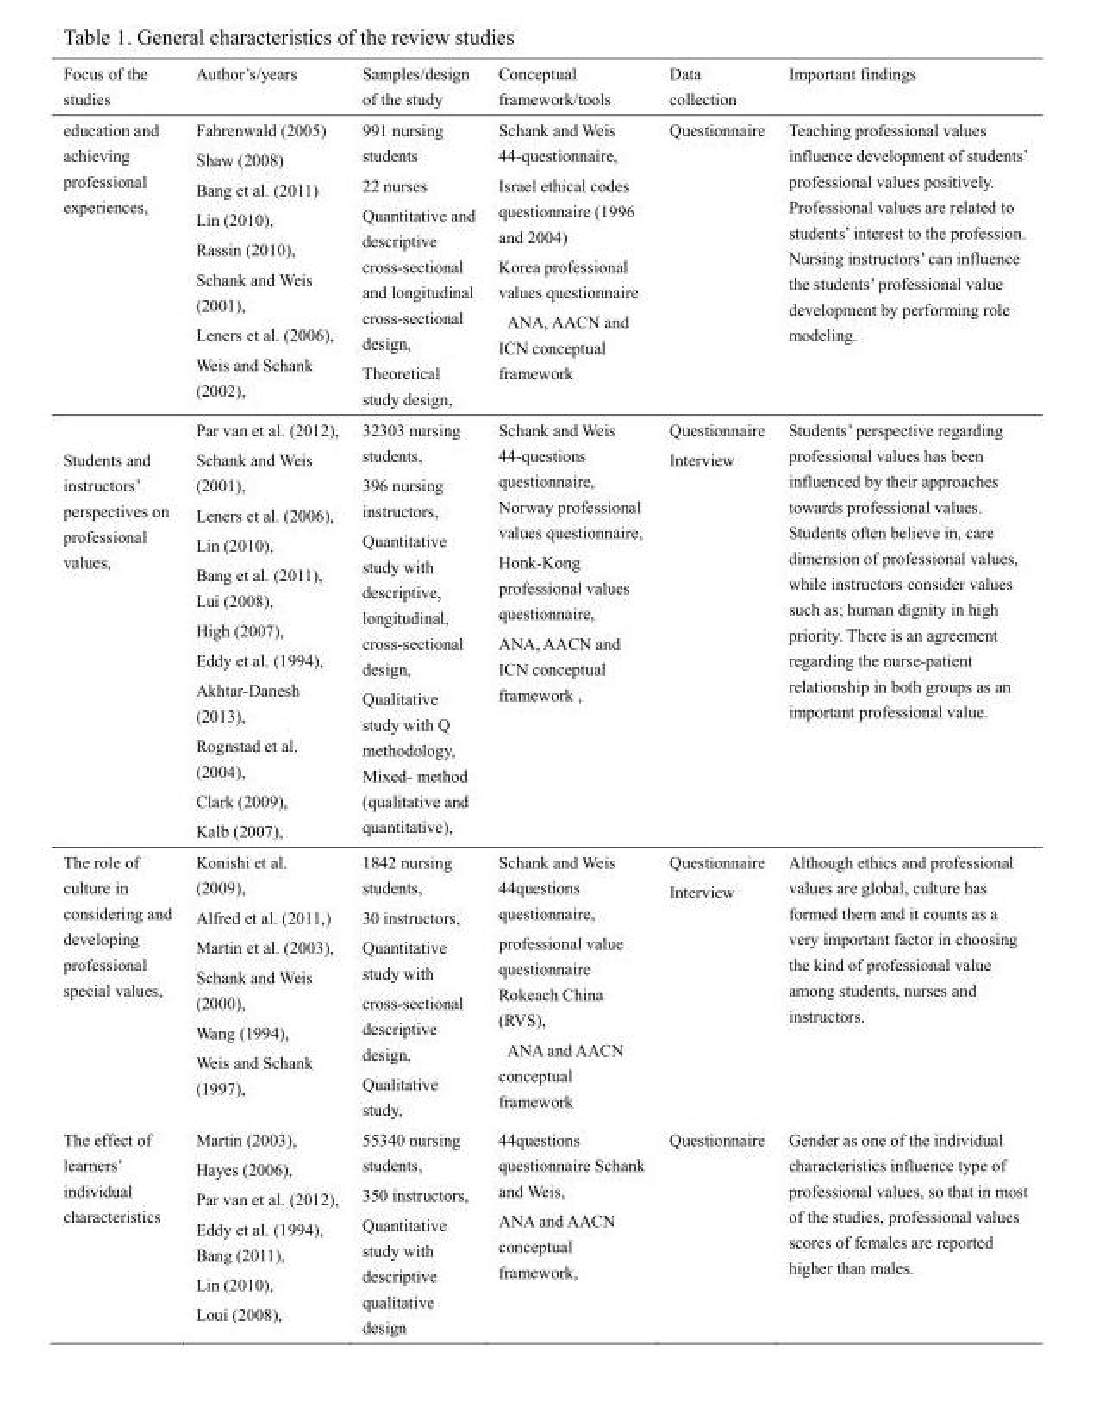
<table><thead><tr><td>Focus of the studies</td><td>Author’s/years</td><td>Samples/design of the study</td><td>Conceptual framework/tools</td><td>Data collection</td><td>Important findings</td></tr></thead><tbody><tr><td>education and achieving professional experiences,</td><td>Fahrenwald (2005) Shaw (2008) Bang et al. (2011) Lin (2010), Rassin (2010), Schank and Weis (2001), Leners et al. (2006), Weis and Schank (2002),</td><td>991 nursing students 22 nurses Quantitative and descriptive cross-sectional and longitudinal cross-sectional design, Theoretical study design,</td><td>Schank and Weis 44-questionnaire, Israel ethical codes questionnaire (1996 and 2004) Korea professional values questionnaire ANA, AACN and ICN conceptual framework</td><td>Questionnaire</td><td>Teaching professional values influence development of students’ professional values positively. Professional values are related to students’ interest to the profession. Nursing instructors’ can influence the students’ professional value development by performing role modeling.</td></tr><tr><td>Students and instructors’ perspectives on professional values,</td><td>Par van et al. (2012), Schank and Weis (2001), Leners et al. (2006), Lin (2010), Bang et al. (2011), Lui (2008), High (2007), Eddy et al. (1994), Akhtar-Danesh (2013), Rognstad et al. (2004), Clark (2009), Kalb (2007),</td><td>32303 nursing students, 396 nursing instructors, Quantitative study with descriptive, longitudinal, cross-sectional design, Qualitative study with Q methodology, Mixed- method (qualitative and quantitative),</td><td>Schank and Weis 44-questions questionnaire, Norway professional values questionnaire, Honk-Kong professional values questionnaire, ANA, AACN and ICN conceptual framework ,</td><td>Questionnaire Interview</td><td>Students’ perspective regarding professional values has been influenced by their approaches towards professional values. Students often believe in, care dimension of professional values, while instructors consider values such as; human dignity in high priority. There is an agreement regarding the nurse-patient relationship in both groups as an important professional value.</td></tr><tr><td>The role of culture in considering and developing professional special values,</td><td>Konishi et al. (2009), Alfred et al. (2011,) Martin et al. (2003), Schank and Weis (2000), Wang (1994), Weis and Schank (1997),</td><td>1842 nursing students, 30 instructors, Quantitative study with cross-sectional descriptive design, Qualitative study,</td><td>Schank and Weis 44questions questionnaire, professional value questionnaire Rokeach China (RVS), ANA and AACN conceptual framework</td><td>Questionnaire Interview</td><td>Although ethics and professional values are global, culture has formed them and it counts as a very important factor in choosing the kind of professional value among students, nurses and instructors.</td></tr><tr><td>The effect of learners’ individual characteristics</td><td>Martin (2003), Hayes (2006), Par van et al. (2012), Eddy et al. (1994), Bang (2011), Lin (2010), Loui (2008),</td><td>55340 nursing students, 350 instructors, Quantitative study with descriptive qualitative design</td><td>44questions questionnaire Schank and Weis, ANA and AACN conceptual framework,</td><td>Questionnaire</td><td>Gender as one of the individual characteristics influence type of professional values, so that in most of the studies, professional values scores of females are reported higher than males.</td></tr></tbody></table>